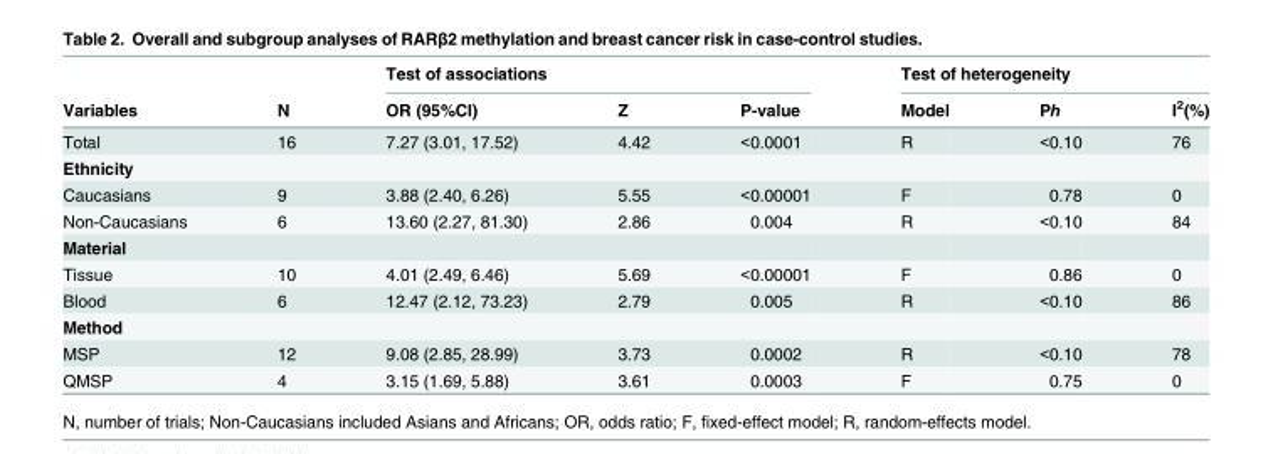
<table><thead><tr><td rowspan="2">Variables</td><td rowspan="2">N</td><td colspan="3">Test of associations</td><td colspan="3">Test of heterogeneity</td></tr><tr><td>OR (95%CI)</td><td>Z</td><td>P-value</td><td>Model</td><td>Ph</td><td>I<sup>2</sup>(%)</td></tr></thead><tbody><tr><td>Total</td><td>16</td><td>7.27 (3.01, 17.52)</td><td>4.42</td><td>&lt;0.0001</td><td>R</td><td>&lt;0.10</td><td>76</td></tr><tr><td colspan="8">Ethnicity</td></tr><tr><td>Caucasians</td><td>9</td><td>3.88 (2.40, 6.26)</td><td>5.55</td><td>&lt;0.00001</td><td>F</td><td>0.78</td><td>0</td></tr><tr><td>Non-Caucasians</td><td>6</td><td>13.60 (2.27, 81.30)</td><td>2.86</td><td>0.004</td><td>R</td><td>&lt;0.10</td><td>84</td></tr><tr><td colspan="8">Material</td></tr><tr><td>Tissue</td><td>10</td><td>4.01 (2.49, 6.46)</td><td>5.69</td><td>&lt;0.00001</td><td>F</td><td>0.86</td><td>0</td></tr><tr><td>Blood</td><td>6</td><td>12.47 (2.12, 73.23)</td><td>2.79</td><td>0.005</td><td>R</td><td>&lt;0.10</td><td>86</td></tr><tr><td colspan="8">Method</td></tr><tr><td>MSP</td><td>12</td><td>9.08 (2.85, 28.99)</td><td>3.73</td><td>0.0002</td><td>R</td><td>&lt;0.10</td><td>78</td></tr><tr><td>QMSP</td><td>4</td><td>3.15 (1.69, 5.88)</td><td>3.61</td><td>0.0003</td><td>F</td><td>0.75</td><td>0</td></tr></tbody></table>